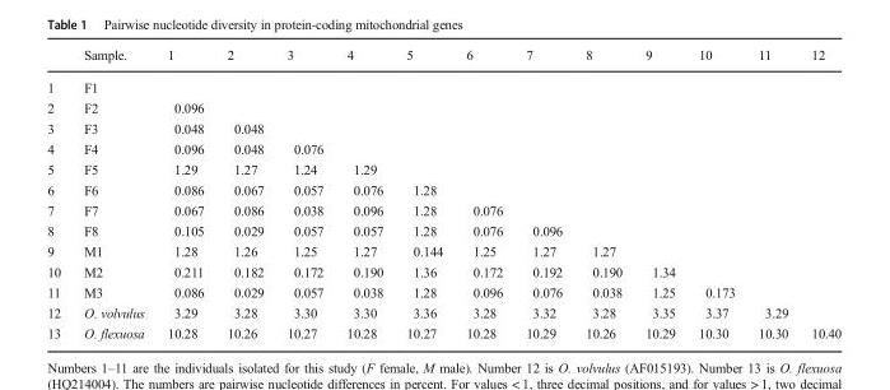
<table><thead><tr><td></td><td>Sample.</td><td>1</td><td>2</td><td>3</td><td>4</td><td>5</td><td>6</td><td>7</td><td>8</td><td>9</td><td>10</td><td>11</td><td>12</td></tr></thead><tbody><tr><td>1</td><td>F1</td><td></td><td></td><td></td><td></td><td></td><td></td><td></td><td></td><td></td><td></td><td></td><td></td></tr><tr><td>2</td><td>F2</td><td>0.096</td><td></td><td></td><td></td><td></td><td></td><td></td><td></td><td></td><td></td><td></td><td></td></tr><tr><td>3</td><td>F3</td><td>0.048</td><td>0.048</td><td></td><td></td><td></td><td></td><td></td><td></td><td></td><td></td><td></td><td></td></tr><tr><td>4</td><td>F4</td><td>0.096</td><td>0.048</td><td>0.076</td><td></td><td></td><td></td><td></td><td></td><td></td><td></td><td></td><td></td></tr><tr><td>5</td><td>F5</td><td>1.29</td><td>1.27</td><td>1.24</td><td>1.29</td><td></td><td></td><td></td><td></td><td></td><td></td><td></td><td></td></tr><tr><td>6</td><td>F6</td><td>0.086</td><td>0.067</td><td>0.057</td><td>0.076</td><td>1.28</td><td></td><td></td><td></td><td></td><td></td><td></td><td></td></tr><tr><td>7</td><td>F7</td><td>0.067</td><td>0.086</td><td>0.038</td><td>0.096</td><td>1.28</td><td>0.076</td><td></td><td></td><td></td><td></td><td></td><td></td></tr><tr><td>8</td><td>F8</td><td>0.105</td><td>0.029</td><td>0.057</td><td>0.057</td><td>1.28</td><td>0.076</td><td>0.096</td><td></td><td></td><td></td><td></td><td></td></tr><tr><td>9</td><td>M1</td><td>1.28</td><td>1.26</td><td>1.25</td><td>1.27</td><td>0.144</td><td>1.25</td><td>1.27</td><td>1.27</td><td></td><td></td><td></td><td></td></tr><tr><td>10</td><td>M2</td><td>0.211</td><td>0.182</td><td>0.172</td><td>0.190</td><td>1.36</td><td>0.172</td><td>0.192</td><td>0.190</td><td>1.34</td><td></td><td></td><td></td></tr><tr><td>11</td><td>M3</td><td>0.086</td><td>0.029</td><td>0.057</td><td>0.038</td><td>1.28</td><td>0.096</td><td>0.076</td><td>0.038</td><td>1.25</td><td>0.173</td><td></td><td></td></tr><tr><td>12</td><td>O. volvulus</td><td>3.29</td><td>3.28</td><td>3.30</td><td>3.30</td><td>3.36</td><td>3.28</td><td>3.32</td><td>3.28</td><td>3.35</td><td>3.37</td><td>3.29</td><td></td></tr><tr><td>13</td><td>O. flexuosa</td><td>10.28</td><td>10.26</td><td>10.27</td><td>10.28</td><td>10.27</td><td>10.28</td><td>10.29</td><td>10.26</td><td>10.29</td><td>10.30</td><td>10.30</td><td>10.40</td></tr></tbody></table>